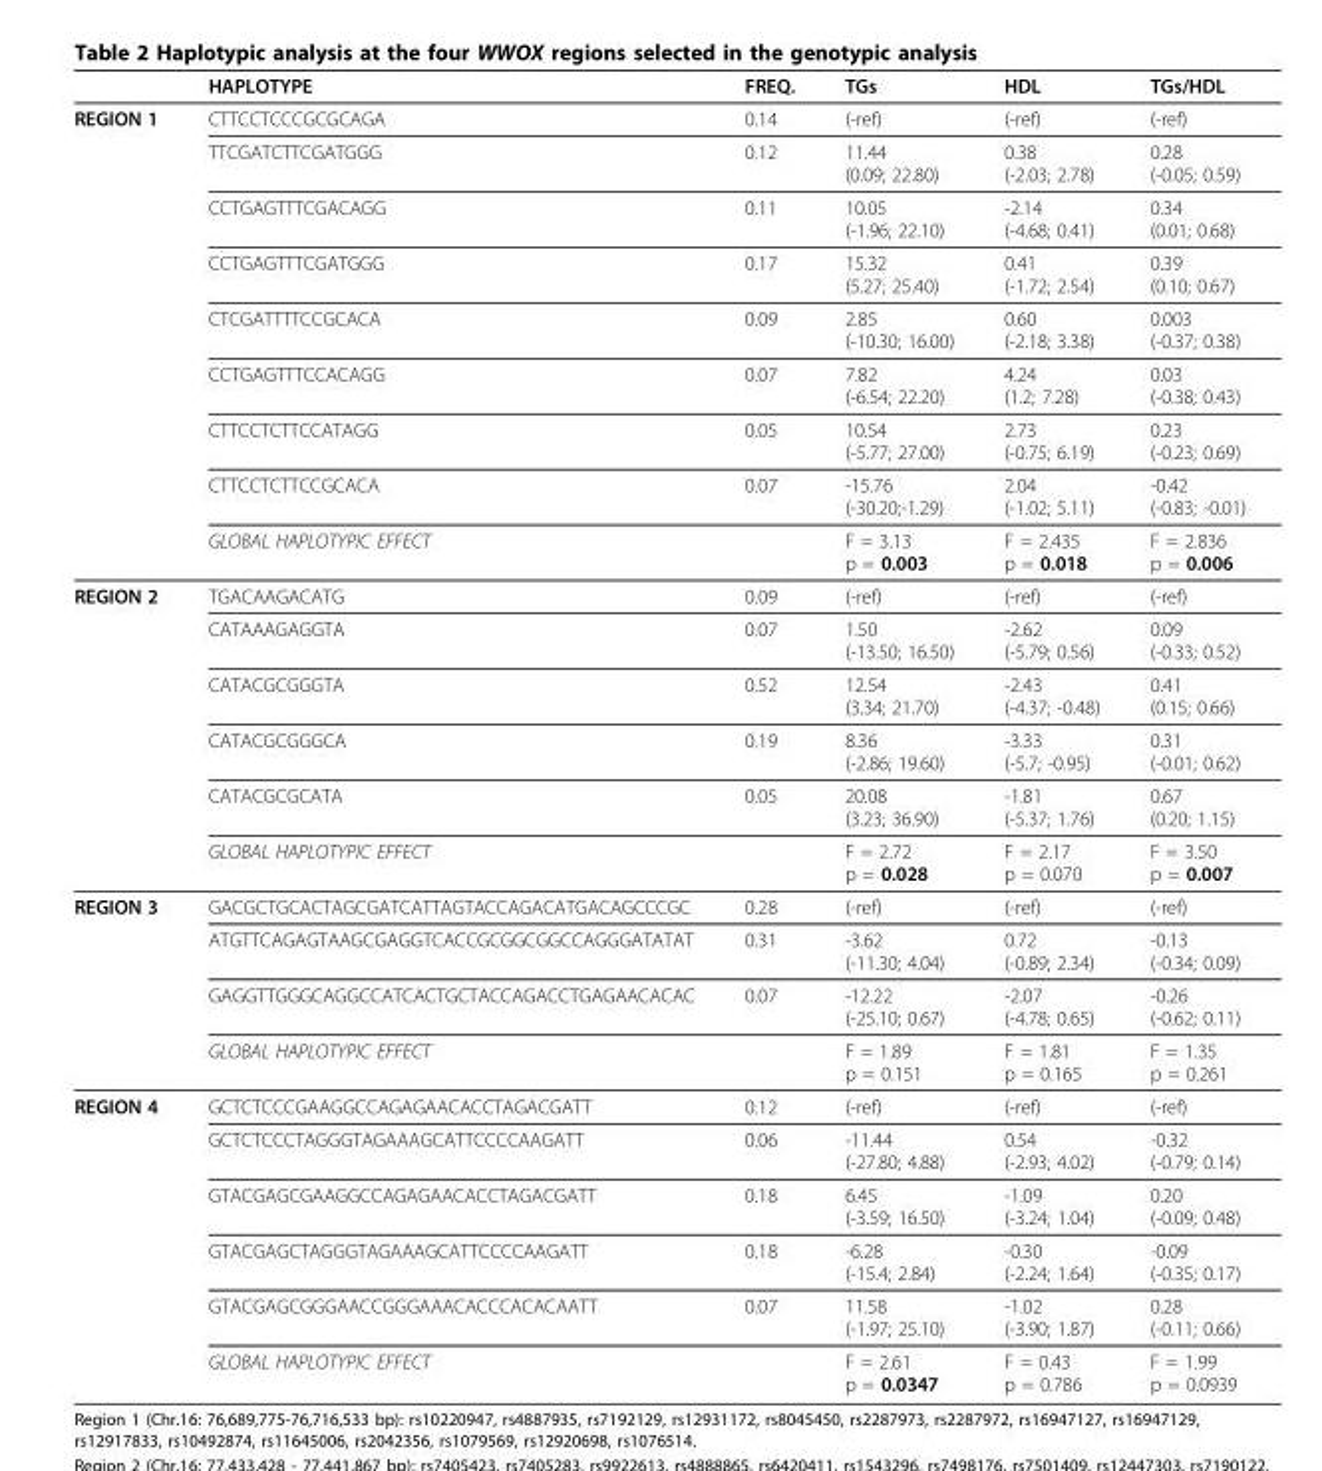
<table><thead><tr><td></td><td>HAPLOTYPE</td><td>FREQ.</td><td>TGs</td><td>HDL</td><td>TGs/HDL</td></tr></thead><tbody><tr><td rowspan="9">REGION 1</td><td>CTTCCTCCCGCGCAGA</td><td>0.14</td><td>(-ref)</td><td>(-ref)</td><td>(-ref)</td></tr><tr><td>TTCGATCTTCGATGGG</td><td>0.12</td><td>11.44 (0.09; 22.80)</td><td>0.38 (-2.03; 2.78)</td><td>0.28 (-0.05; 0.59)</td></tr><tr><td>CCTGAGTTTCGACAGG</td><td>0.11</td><td>10.05 (-1.96; 22.10)</td><td>-2.14 (-4.68; 0.41)</td><td>0.34 (0.01; 0.68)</td></tr><tr><td>CCTGAGTTTCGATGGG</td><td>0.17</td><td>15.32 (5.27; 25.40)</td><td>0.41 (-1.72; 2.54)</td><td>0.39 (0.10; 0.67)</td></tr><tr><td>CTCGATTTTCCGCACA</td><td>0.09</td><td>2.85 (-10.30; 16.00)</td><td>0.60 (-2.18; 3.38)</td><td>0.003 (-0.37; 0.38)</td></tr><tr><td>CCTGAGTTTCCACAGG</td><td>0.07</td><td>7.82 (-6.54; 22.20)</td><td>4.24 (1.2; 7.28)</td><td>0.03 (-0.38; 0.43)</td></tr><tr><td>CTTCCTCTTCCATAGG</td><td>0.05</td><td>10.54 (-5.77; 27.00)</td><td>2.73 (-0.75; 6.19)</td><td>0.23 (-0.23; 0.69)</td></tr><tr><td>CTTCCTCTTCCGCACA</td><td>0.07</td><td>-15.76 (-30.20;-1.29)</td><td>2.04 (-1.02; 5.11)</td><td>-0.42 (-0.83; -0.01)</td></tr><tr><td colspan="2">GLOBAL HAPLOTYPIC EFFECT</td><td>F = 3.13 p = 0.003</td><td>F = 2.435 p = 0.018</td><td>F = 2.836 p = 0.006</td></tr><tr><td rowspan="6">REGION 2</td><td>TGACAAGACATG</td><td>0.09</td><td>(-ref)</td><td>(-ref)</td><td>(-ref)</td></tr><tr><td>CATAAAGAGGTA</td><td>0.07</td><td>1.50 (-13.50; 16.50)</td><td>-2.62 (-5.79; 0.56)</td><td>0.09 (-0.33; 0.52)</td></tr><tr><td>CATACGCGGGTA</td><td>0.52</td><td>12.54 (3.34; 21.70)</td><td>-2.43 (-4.37; -0.48)</td><td>0.41 (0.15; 0.66)</td></tr><tr><td>CATACGCGGGCA</td><td>0.19</td><td>8.36 (-2.86; 19.60)</td><td>-3.33 (-5.7; -0.95)</td><td>0.31 (-0.01; 0.62)</td></tr><tr><td>CATACGCGCATA</td><td>0.05</td><td>20.08 (3.23; 36.90)</td><td>-1.81 (-5.37; 1.76)</td><td>0.67 (0.20; 1.15)</td></tr><tr><td colspan="2">GLOBAL HAPLOTYPIC EFFECT</td><td>F = 2.72 p = 0.028</td><td>F = 2.17 p = 0.070</td><td>F = 3.50 p = 0.007</td></tr><tr><td rowspan="4">REGION 3</td><td>GACGCTGCACTAGCGATCATTAGTACCAGACATGACAGCCCGC</td><td>0.28</td><td>(-ref)</td><td>(-ref)</td><td>(-ref)</td></tr><tr><td>ATGTTCAGAGTAAGCGAGGTCACCGCGGCGGCCAGGGATATAT</td><td>0.31</td><td>-3.62 (-11.30; 4.04)</td><td>0.72 (-0.89; 2.34)</td><td>-0.13 (-0.34; 0.09)</td></tr><tr><td>GAGGTTGGGCAGGCCATCACTGCTACCAGACCTGAGAACACAC</td><td>0.07</td><td>-12.22 (-25.10; 0.67)</td><td>-2.07 (-4.78; 0.65)</td><td>-0.26 (-0.62; 0.11)</td></tr><tr><td colspan="2">GLOBAL HAPLOTYPIC EFFECT</td><td>F = 1.89 p = 0.151</td><td>F = 1.81 p = 0.165</td><td>F = 1.35 p = 0.261</td></tr><tr><td rowspan="6">REGION 4</td><td>GCTCTCCCGAAGGCCAGAGAACACCTAGACGATT</td><td>0.12</td><td>(-ref)</td><td>(-ref)</td><td>(-ref)</td></tr><tr><td>GCTCTCCCTAGGGTAGAAAGCATTCCCCAAGATT</td><td>0.06</td><td>-11.44 (-27.80; 4.88)</td><td>0.54 (-2.93; 4.02)</td><td>-0.32 (-0.79; 0.14)</td></tr><tr><td>GTACGAGCGAAGGCCAGAGAACACCTAGACGATT</td><td>0.18</td><td>6.45 (-3.59; 16.50)</td><td>-1.09 (-3.24; 1.04)</td><td>0.20 (-0.09; 0.48)</td></tr><tr><td>GTACGAGCTAGGGTAGAAAGCATTCCCCAAGATT</td><td>0.18</td><td>-6.28 (-15.4; 2.84)</td><td>-0.30 (-2.24; 1.64)</td><td>-0.09 (-0.35; 0.17)</td></tr><tr><td>GTACGAGCGGGAACCGGGAAACACCCACACAATT</td><td>0.07</td><td>11.58 (-1.97; 25.10)</td><td>-1.02 (-3.90; 1.87)</td><td>0.28 (-0.11; 0.66)</td></tr><tr><td colspan="2">GLOBAL HAPLOTYPIC EFFECT</td><td>F = 2.61 p = 0.0347</td><td>F = 0.43 p = 0.786</td><td>F = 1.99 p = 0.0939</td></tr></tbody></table>